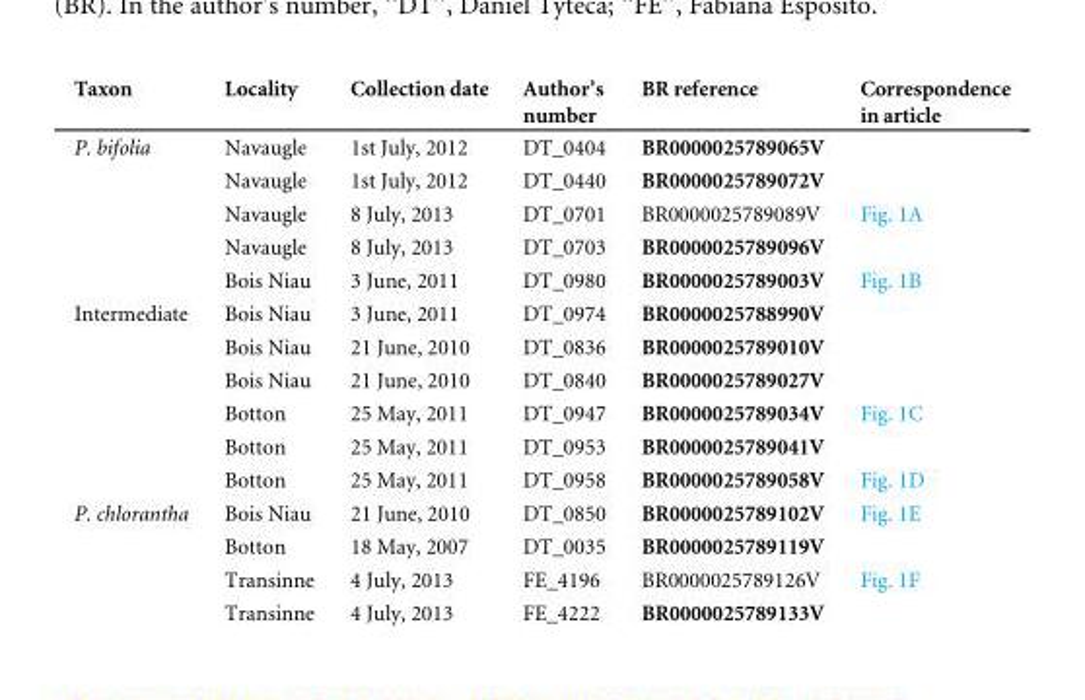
<table><thead><tr><td>Taxon</td><td>Locality</td><td>Collection date</td><td>Author’s number</td><td>BR reference</td><td>Correspondence in article</td></tr></thead><tbody><tr><td rowspan="5">P. bifolia</td><td>Navaugle</td><td>1st July, 2012</td><td>DT_0404</td><td>BR0000025789065V</td><td></td></tr><tr><td>Navaugle</td><td>1st July, 2012</td><td>DT_0440</td><td>BR0000025789072V</td><td></td></tr><tr><td>Navaugle</td><td>8 July, 2013</td><td>DT_0701</td><td>BR0000025789089V</td><td>Fig. 1A</td></tr><tr><td>Navaugle</td><td>8 July, 2013</td><td>DT_0703</td><td>BR0000025789096V</td><td></td></tr><tr><td>Bois Niau</td><td>3 June, 2011</td><td>DT_0980</td><td>BR0000025789003V</td><td>Fig. 1B</td></tr><tr><td rowspan="6">Intermediate</td><td>Bois Niau</td><td>3 June, 2011</td><td>DT_0974</td><td>BR0000025788990V</td><td></td></tr><tr><td>Bois Niau</td><td>21 June, 2010</td><td>DT_0836</td><td>BR0000025789010V</td><td></td></tr><tr><td>Bois Niau</td><td>21 June, 2010</td><td>DT_0840</td><td>BR0000025789027V</td><td></td></tr><tr><td>Botton</td><td>25 May, 2011</td><td>DT_0947</td><td>BR0000025789034V</td><td>Fig. 1C</td></tr><tr><td>Botton</td><td>25 May, 2011</td><td>DT_0953</td><td>BR0000025789041V</td><td></td></tr><tr><td>Botton</td><td>25 May, 2011</td><td>DT_0958</td><td>BR0000025789058V</td><td>Fig. 1D</td></tr><tr><td rowspan="4">P. chlorantha</td><td>Bois Niau</td><td>21 June, 2010</td><td>DT_0850</td><td>BR0000025789102V</td><td>Fig. 1E</td></tr><tr><td>Botton</td><td>18 May, 2007</td><td>DT_0035</td><td>BR0000025789119V</td><td></td></tr><tr><td>Transinne</td><td>4 July, 2013</td><td>FE_4196</td><td>BR0000025789126V</td><td>Fig. 1F</td></tr><tr><td>Transinne</td><td>4 July, 2013</td><td>FE_4222</td><td>BR0000025789133V</td><td></td></tr></tbody></table>